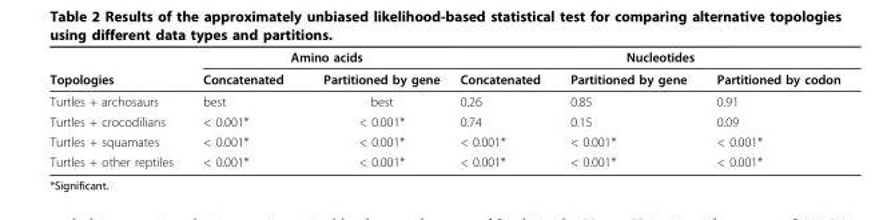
<table><thead><tr><td rowspan="2">Topologies</td><td colspan="2">Amino acids</td><td colspan="3">Nucleotides</td></tr><tr><td>Concatenated</td><td>Partitioned by gene</td><td>Concatenated</td><td>Partitioned by gene</td><td>Partitioned by codon</td></tr></thead><tbody><tr><td>Turtles + archosaurs</td><td>best</td><td>best</td><td>0.26</td><td>0.85</td><td>0.91</td></tr><tr><td>Turtles + crocodilians</td><td>&lt; 0.001*</td><td>&lt; 0.001*</td><td>0.74</td><td>0.15</td><td>0.09</td></tr><tr><td>Turtles + squamates</td><td>&lt; 0.001*</td><td>&lt; 0.001*</td><td>&lt; 0.001*</td><td>&lt; 0.001*</td><td>&lt; 0.001*</td></tr><tr><td>Turtles + other reptiles</td><td>&lt; 0.001*</td><td>&lt; 0.001*</td><td>&lt; 0.001*</td><td>&lt; 0.001*</td><td>&lt; 0.001*</td></tr></tbody></table>